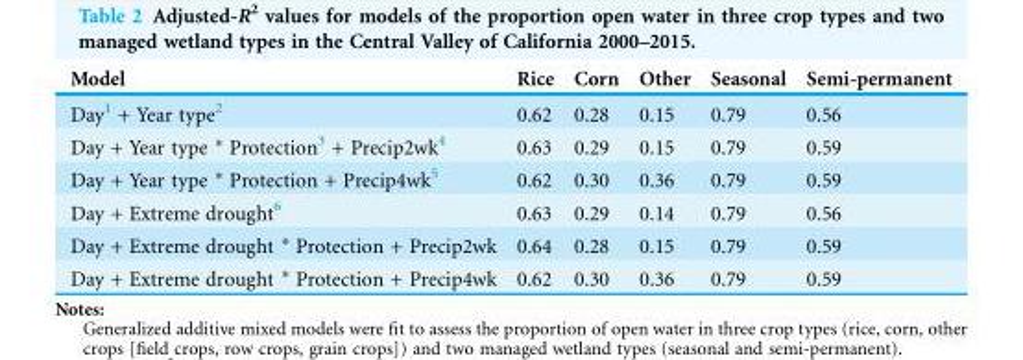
<table><thead><tr><td>Model</td><td>Rice</td><td>Corn</td><td>Other</td><td>Seasonal</td><td>Semi-permanent</td></tr></thead><tbody><tr><td>Day<sup>1</sup> + Year type<sup>2</sup></td><td>0.62</td><td>0.28</td><td>0.15</td><td>0.79</td><td>0.56</td></tr><tr><td>Day + Year type * Protection<sup>3</sup> + Precip2wk<sup>4</sup></td><td>0.63</td><td>0.29</td><td>0.15</td><td>0.79</td><td>0.59</td></tr><tr><td>Day + Year type * Protection + Precip4wk<sup>5</sup></td><td>0.62</td><td>0.30</td><td>0.36</td><td>0.79</td><td>0.59</td></tr><tr><td>Day + Extreme drought<sup>6</sup></td><td>0.63</td><td>0.29</td><td>0.14</td><td>0.79</td><td>0.56</td></tr><tr><td>Day + Extreme drought * Protection + Precip2wk</td><td>0.64</td><td>0.28</td><td>0.15</td><td>0.79</td><td>0.59</td></tr><tr><td>Day + Extreme drought * Protection + Precip4wk</td><td>0.62</td><td>0.30</td><td>0.36</td><td>0.79</td><td>0.59</td></tr></tbody></table>